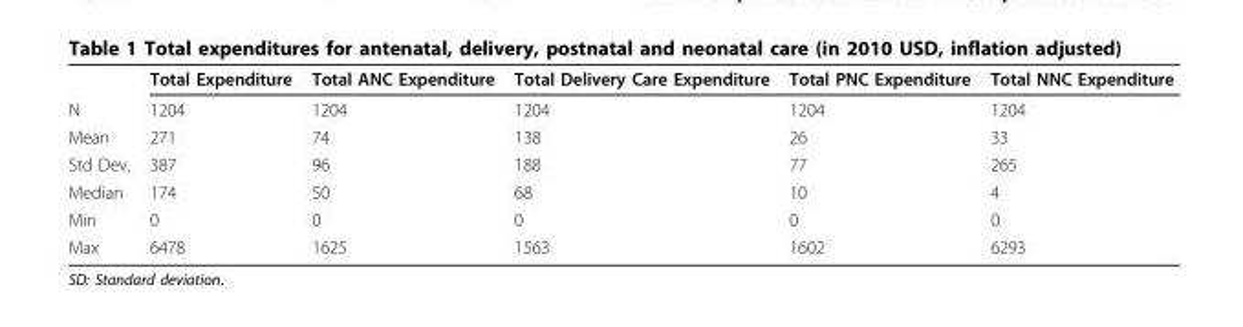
<table><thead><tr><td></td><td>Total Expenditure</td><td>Total ANC Expenditure</td><td>Total Delivery Care Expenditure</td><td>Total PNC Expenditure</td><td>Total NNC Expenditure</td></tr></thead><tbody><tr><td>N</td><td>1204</td><td>1204</td><td>1204</td><td>1204</td><td>1204</td></tr><tr><td>Mean</td><td>271</td><td>74</td><td>138</td><td>26</td><td>33</td></tr><tr><td>Std Dev.</td><td>387</td><td>96</td><td>188</td><td>77</td><td>265</td></tr><tr><td>Median</td><td>174</td><td>50</td><td>68</td><td>10</td><td>4</td></tr><tr><td>Min</td><td>0</td><td>0</td><td>0</td><td>0</td><td>0</td></tr><tr><td>Max</td><td>6478</td><td>1625</td><td>1563</td><td>1602</td><td>6293</td></tr></tbody></table>